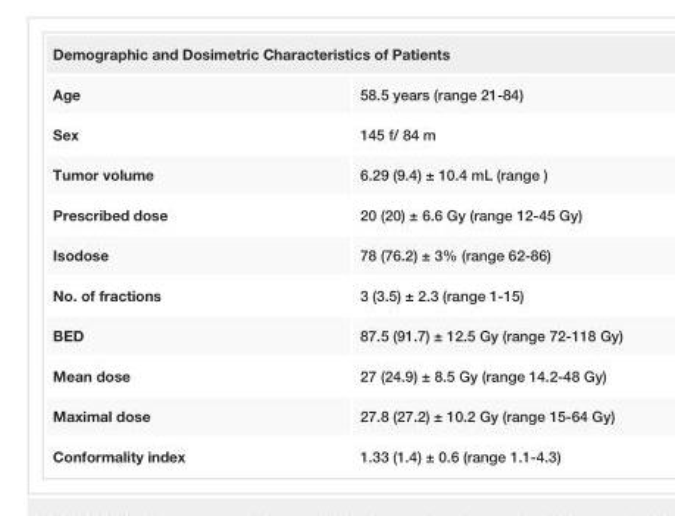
<table><tbody><tr><td colspan="2">Demographic and Dosimetric Characteristics of Patients</td></tr><tr><td>Age</td><td>58.5 years (range 21-84)</td></tr><tr><td>Sex</td><td>145 f/ 84 m</td></tr><tr><td>Tumor volume</td><td>6.29 (9.4) ± 10.4 mL (range )</td></tr><tr><td>Prescribed dose</td><td>20 (20) ± 6.6 Gy (range 12-45 Gy)</td></tr><tr><td>Isodose</td><td>78 (76.2) ± 3% (range 62-86)</td></tr><tr><td>No. of fractions</td><td>3 (3.5) ± 2.3 (range 1-15)</td></tr><tr><td>BED</td><td>87.5 (91.7) ± 12.5 Gy (range 72-118 Gy)</td></tr><tr><td>Mean dose</td><td>27 (24.9) ± 8.5 Gy (range 14.2-48 Gy)</td></tr><tr><td>Maximal dose</td><td>27.8 (27.2) ± 10.2 Gy (range 15-64 Gy)</td></tr><tr><td>Conformality index</td><td>1.33 (1.4) ± 0.6 (range 1.1-4.3)</td></tr></tbody></table>